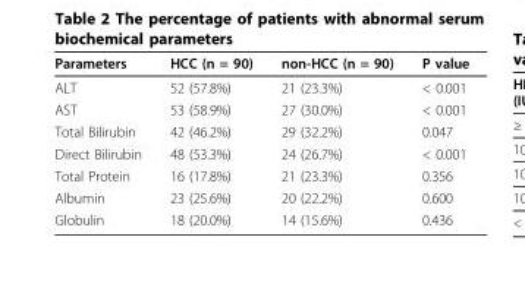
<table><tbody><tr><td>Parameters</td><td>HCC (n = 90)</td><td>non-HCC (n = 90)</td><td>P value</td></tr><tr><td>ALT</td><td>52 (57.8%)</td><td>21 (23.3%)</td><td>&lt; 0.001</td></tr><tr><td>AST</td><td>53 (58.9%)</td><td>27 (30.0%)</td><td>&lt; 0.001</td></tr><tr><td>Total Bilirubin</td><td>42 (46.2%)</td><td>29 (32.2%)</td><td>0.047</td></tr><tr><td>Direct Bilirubin</td><td>48 (53.3%)</td><td>24 (26.7%)</td><td>&lt; 0.001</td></tr><tr><td>Total Protein</td><td>16 (17.8%)</td><td>21 (23.3%)</td><td>0.356</td></tr><tr><td>Albumin</td><td>23 (25.6%)</td><td>20 (22.2%)</td><td>0.600</td></tr><tr><td>Globulin</td><td>18 (20.0%)</td><td>14 (15.6%)</td><td>0.436</td></tr></tbody></table>